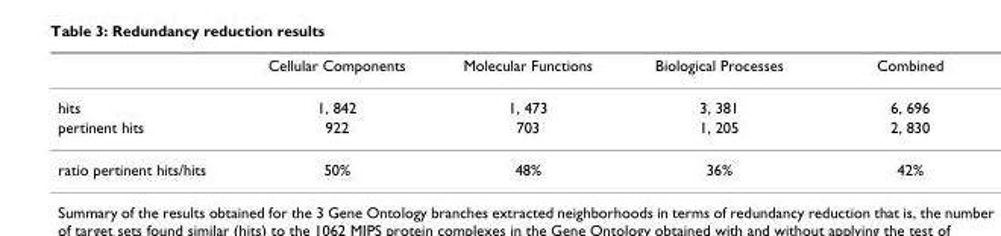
<table><thead><tr><td></td><td>Cellular Components</td><td>Molecular Functions</td><td>Biological Processes</td><td>Combined</td></tr></thead><tbody><tr><td>hits</td><td>1, 842</td><td>1, 473</td><td>3, 381</td><td>6, 696</td></tr><tr><td>pertinent hits</td><td>922</td><td>703</td><td>1, 205</td><td>2, 830</td></tr><tr><td>ratio pertinent hits/hits</td><td>50%</td><td>48%</td><td>36%</td><td>42%</td></tr></tbody></table>